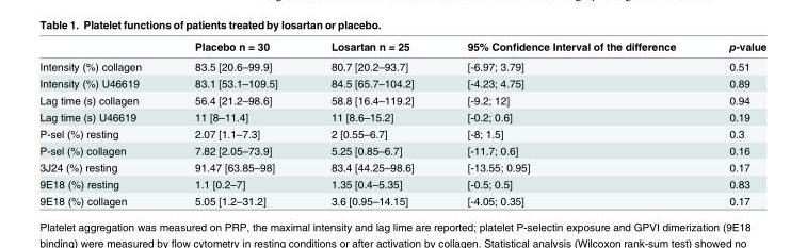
<table><thead><tr><td></td><td>Placebo n = 30</td><td>Losartan n = 25</td><td>95% Confidence Interval of the difference</td><td>p-value</td></tr></thead><tbody><tr><td>Intensity (%) collagen</td><td>83.5 [20.6–99.9]</td><td>80.7 [20.2–93.7]</td><td>[-6.97; 3.79]</td><td>0.51</td></tr><tr><td>Intensity (%) U46619</td><td>83.1 [53.1–109.5]</td><td>84.5 [65.7–104.2]</td><td>[-4.23; 4.75]</td><td>0.89</td></tr><tr><td>Lag time (s) collagen</td><td>56.4 [21.2–98.6]</td><td>58.8 [16.4–119.2]</td><td>[-9.2; 12]</td><td>0.94</td></tr><tr><td>Lag time (s) U46619</td><td>11 [8–11.4]</td><td>11 [8.6–15.2]</td><td>[-0.2; 0.6]</td><td>0.19</td></tr><tr><td>P-sel (%) resting</td><td>2.07 [1.1–7.3]</td><td>2 [0.55–6.7]</td><td>[-8; 1.5]</td><td>0.3</td></tr><tr><td>P-sel (%) collagen</td><td>7.82 [2.05–73.9]</td><td>5.25 [0.85–6.7]</td><td>[-11.7; 0.6]</td><td>0.16</td></tr><tr><td>3J24 (%) resting</td><td>91.47 [63.85–98]</td><td>83.4 [44.25–98.6]</td><td>[-13.55; 0.95]</td><td>0.17</td></tr><tr><td>9E18 (%) resting</td><td>1.1 [0.2–7]</td><td>1.35 [0.4–5.35]</td><td>[-0.5; 0.5]</td><td>0.83</td></tr><tr><td>9E18 (%) collagen</td><td>5.05 [1.2–31.2]</td><td>3.6 [0.95–14.15]</td><td>[-4.05; 0.35]</td><td>0.17</td></tr></tbody></table>